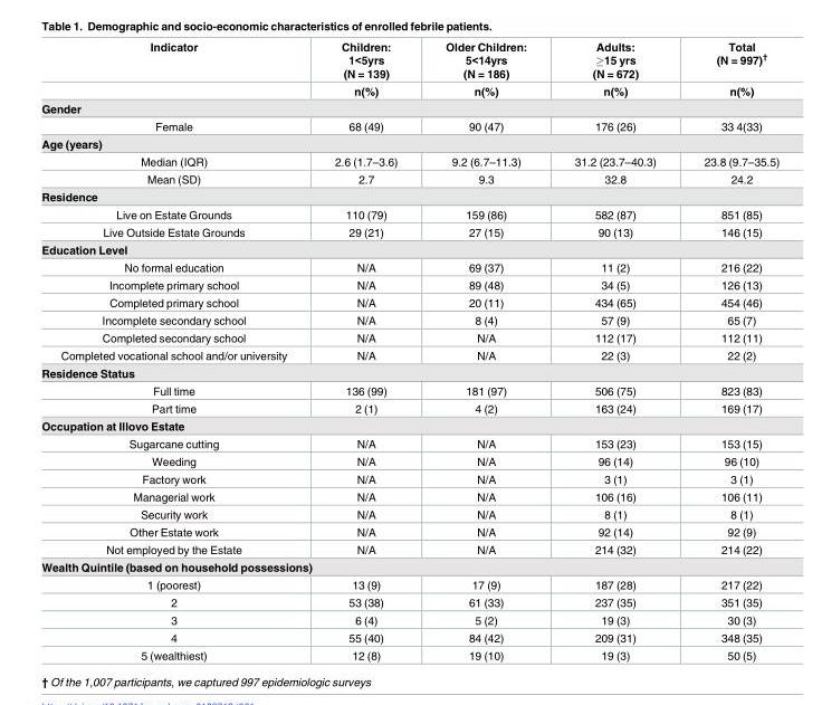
<table><thead><tr><td rowspan="2">Indicator</td><td rowspan="2">Children: 1&lt;5yrs (N = 139) n(%)</td><td rowspan="2">Older Children: 5&lt;14yrs (N = 186) n(%)</td><td rowspan="2">Adults: ≥15 yrs (N = 672) n(%)</td><td rowspan="2">Total (N = 997)<sup>†</sup> n(%)</td></tr><tr></tr></thead><tbody><tr><td colspan="5">Gender</td></tr><tr><td>Female</td><td>68 (49)</td><td>90 (47)</td><td>176 (26)</td><td>33 4(33)</td></tr><tr><td colspan="5">Age (years)</td></tr><tr><td>Median (IQR)</td><td>2.6 (1.7–3.6)</td><td>9.2 (6.7–11.3)</td><td>31.2 (23.7–40.3)</td><td>23.8 (9.7–35.5)</td></tr><tr><td>Mean (SD)</td><td>2.7</td><td>9.3</td><td>32.8</td><td>24.2</td></tr><tr><td colspan="5">Residence</td></tr><tr><td>Live on Estate Grounds</td><td>110 (79)</td><td>159 (86)</td><td>582 (87)</td><td>851 (85)</td></tr><tr><td>Live Outside Estate Grounds</td><td>29 (21)</td><td>27 (15)</td><td>90 (13)</td><td>146 (15)</td></tr><tr><td colspan="5">Education Level</td></tr><tr><td>No formal education</td><td>N/A</td><td>69 (37)</td><td>11 (2)</td><td>216 (22)</td></tr><tr><td>Incomplete primary school</td><td>N/A</td><td>89 (48)</td><td>34 (5)</td><td>126 (13)</td></tr><tr><td>Completed primary school</td><td>N/A</td><td>20 (11)</td><td>434 (65)</td><td>454 (46)</td></tr><tr><td>Incomplete secondary school</td><td>N/A</td><td>8 (4)</td><td>57 (9)</td><td>65 (7)</td></tr><tr><td>Completed secondary school</td><td>N/A</td><td>N/A</td><td>112 (17)</td><td>112 (11)</td></tr><tr><td>Completed vocational school and/or university</td><td>N/A</td><td>N/A</td><td>22 (3)</td><td>22 (2)</td></tr><tr><td colspan="5">Residence Status</td></tr><tr><td>Full time</td><td>136 (99)</td><td>181 (97)</td><td>506 (75)</td><td>823 (83)</td></tr><tr><td>Part time</td><td>2 (1)</td><td>4 (2)</td><td>163 (24)</td><td>169 (17)</td></tr><tr><td colspan="5">Occupation at Illovo Estate</td></tr><tr><td>Sugarcane cutting</td><td>N/A</td><td>N/A</td><td>153 (23)</td><td>153 (15)</td></tr><tr><td>Weeding</td><td>N/A</td><td>N/A</td><td>96 (14)</td><td>96 (10)</td></tr><tr><td>Factory work</td><td>N/A</td><td>N/A</td><td>3 (1)</td><td>3 (1)</td></tr><tr><td>Managerial work</td><td>N/A</td><td>N/A</td><td>106 (16)</td><td>106 (11)</td></tr><tr><td>Security work</td><td>N/A</td><td>N/A</td><td>8 (1)</td><td>8 (1)</td></tr><tr><td>Other Estate work</td><td>N/A</td><td>N/A</td><td>92 (14)</td><td>92 (9)</td></tr><tr><td>Not employed by the Estate</td><td>N/A</td><td>N/A</td><td>214 (32)</td><td>214 (22)</td></tr><tr><td colspan="5">Wealth Quintile (based on household possessions)</td></tr><tr><td>1 (poorest)</td><td>13 (9)</td><td>17 (9)</td><td>187 (28)</td><td>217 (22)</td></tr><tr><td>2</td><td>53 (38)</td><td>61 (33)</td><td>237 (35)</td><td>351 (35)</td></tr><tr><td>3</td><td>6 (4)</td><td>5 (2)</td><td>19 (3)</td><td>30 (3)</td></tr><tr><td>4</td><td>55 (40)</td><td>84 (42)</td><td>209 (31)</td><td>348 (35)</td></tr><tr><td>5 (wealthiest)</td><td>12 (8)</td><td>19 (10)</td><td>19 (3)</td><td>50 (5)</td></tr></tbody></table>